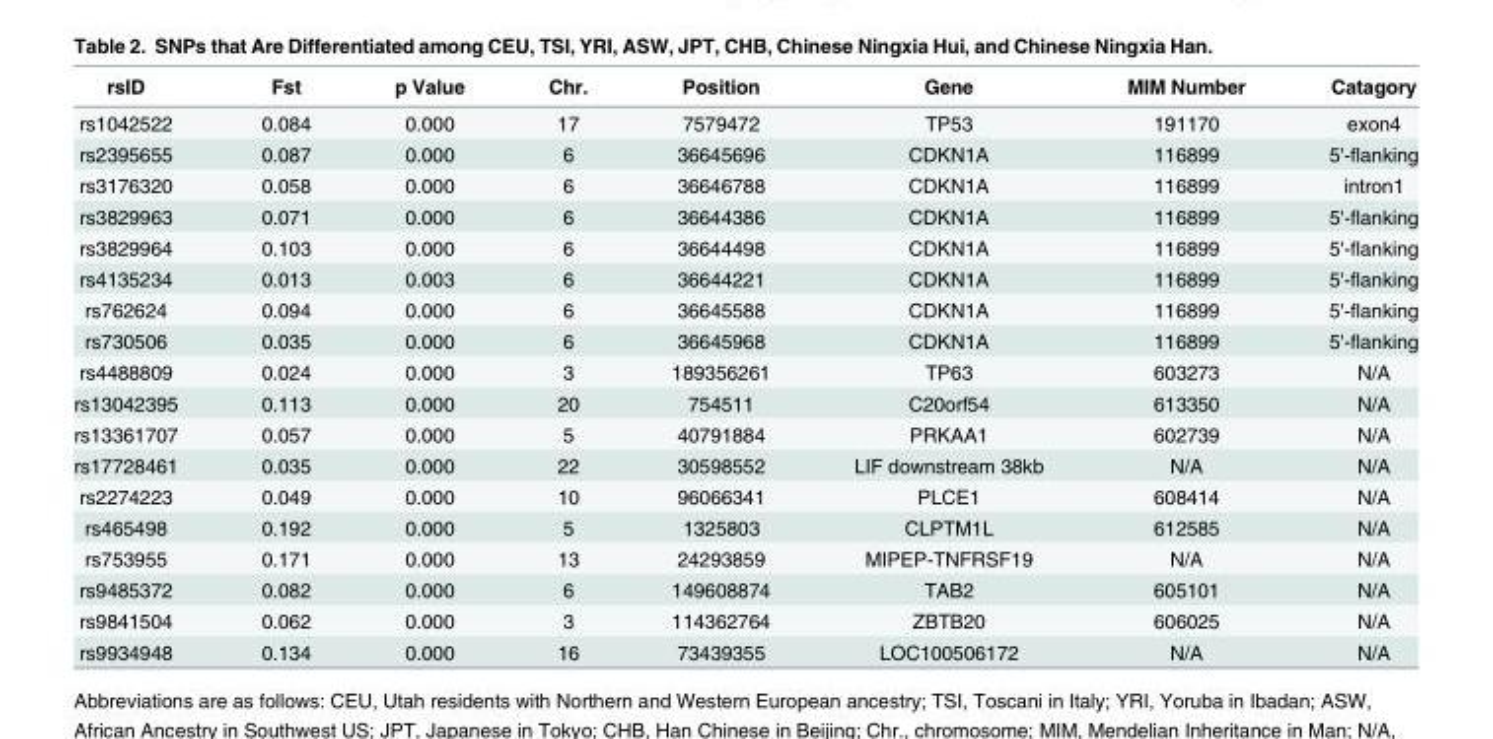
<table><thead><tr><td>rsID</td><td>Fst</td><td>p Value</td><td>Chr.</td><td>Position</td><td>Gene</td><td>MIM Number</td><td>Catagory</td></tr></thead><tbody><tr><td>rs1042522</td><td>0.084</td><td>0.000</td><td>17</td><td>7579472</td><td>TP53</td><td>191170</td><td>exon4</td></tr><tr><td>rs2395655</td><td>0.087</td><td>0.000</td><td>6</td><td>36645696</td><td>CDKN1A</td><td>116899</td><td>5&#x27;-flanking</td></tr><tr><td>rs3176320</td><td>0.058</td><td>0.000</td><td>6</td><td>36646788</td><td>CDKN1A</td><td>116899</td><td>intron1</td></tr><tr><td>rs3829963</td><td>0.071</td><td>0.000</td><td>6</td><td>36644386</td><td>CDKN1A</td><td>116899</td><td>5&#x27;-flanking</td></tr><tr><td>rs3829964</td><td>0.103</td><td>0.000</td><td>6</td><td>36644498</td><td>CDKN1A</td><td>116899</td><td>5&#x27;-flanking</td></tr><tr><td>rs4135234</td><td>0.013</td><td>0.003</td><td>6</td><td>36644221</td><td>CDKN1A</td><td>116899</td><td>5&#x27;-flanking</td></tr><tr><td>rs762624</td><td>0.094</td><td>0.000</td><td>6</td><td>36645588</td><td>CDKN1A</td><td>116899</td><td>5&#x27;-flanking</td></tr><tr><td>rs730506</td><td>0.035</td><td>0.000</td><td>6</td><td>36645968</td><td>CDKN1A</td><td>116899</td><td>5&#x27;-flanking</td></tr><tr><td>rs4488809</td><td>0.024</td><td>0.000</td><td>3</td><td>189356261</td><td>TP63</td><td>603273</td><td>N/A</td></tr><tr><td>rs13042395</td><td>0.113</td><td>0.000</td><td>20</td><td>754511</td><td>C20orf54</td><td>613350</td><td>N/A</td></tr><tr><td>rs13361707</td><td>0.057</td><td>0.000</td><td>5</td><td>40791884</td><td>PRKAA1</td><td>602739</td><td>N/A</td></tr><tr><td>rs17728461</td><td>0.035</td><td>0.000</td><td>22</td><td>30598552</td><td>LIF downstream 38kb</td><td>N/A</td><td>N/A</td></tr><tr><td>rs2274223</td><td>0.049</td><td>0.000</td><td>10</td><td>96066341</td><td>PLCE1</td><td>608414</td><td>N/A</td></tr><tr><td>rs465498</td><td>0.192</td><td>0.000</td><td>5</td><td>1325803</td><td>CLPTM1L</td><td>612585</td><td>N/A</td></tr><tr><td>rs753955</td><td>0.171</td><td>0.000</td><td>13</td><td>24293859</td><td>MIPEP-TNFRSF19</td><td>N/A</td><td>N/A</td></tr><tr><td>rs9485372</td><td>0.082</td><td>0.000</td><td>6</td><td>149608874</td><td>TAB2</td><td>605101</td><td>N/A</td></tr><tr><td>rs9841504</td><td>0.062</td><td>0.000</td><td>3</td><td>114362764</td><td>ZBTB20</td><td>606025</td><td>N/A</td></tr><tr><td>rs9934948</td><td>0.134</td><td>0.000</td><td>16</td><td>73439355</td><td>LOC100506172</td><td>N/A</td><td>N/A</td></tr></tbody></table>